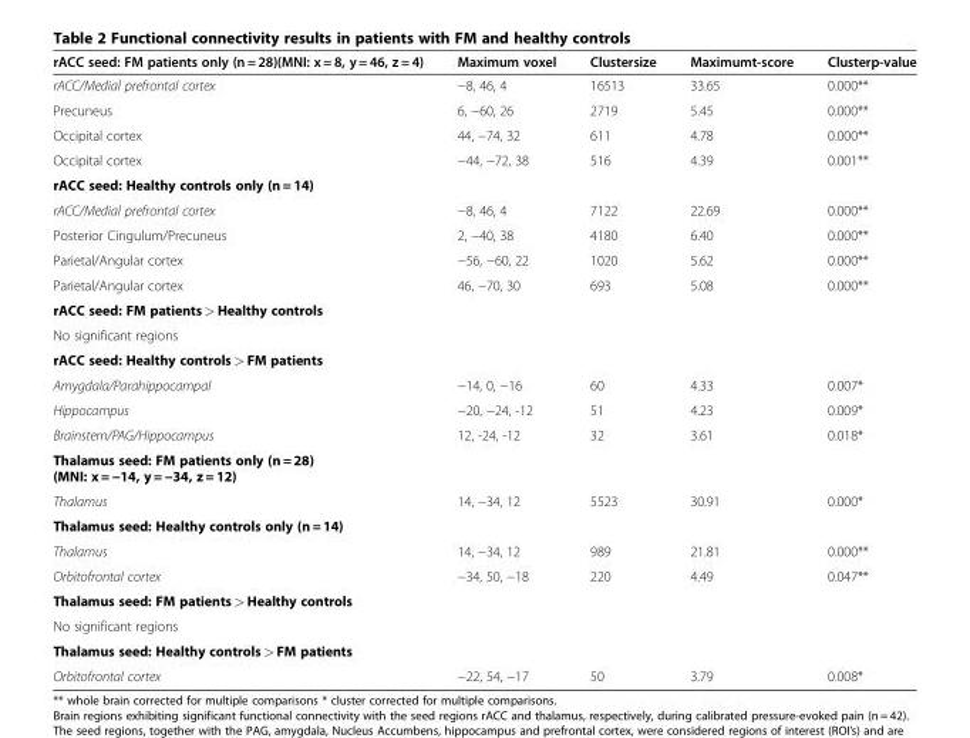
<table><thead><tr><td>rACC seed: FM patients only (n = 28)(MNI: x = 8, y = 46, z = 4)</td><td>Maximum voxel</td><td>Clustersize</td><td>Maximumt-score</td><td>Clusterp-value</td></tr></thead><tbody><tr><td>rACC/Medial prefrontal cortex</td><td>−8, 46, 4</td><td>16513</td><td>33.65</td><td>0.000**</td></tr><tr><td>Precuneus</td><td>6, −60, 26</td><td>2719</td><td>5.45</td><td>0.000**</td></tr><tr><td>Occipital cortex</td><td>44, −74, 32</td><td>611</td><td>4.78</td><td>0.000**</td></tr><tr><td>Occipital cortex</td><td>−44, −72, 38</td><td>516</td><td>4.39</td><td>0.001**</td></tr><tr><td colspan="5">rACC seed: Healthy controls only (n = 14)</td></tr><tr><td>rACC/Medial prefrontal cortex</td><td>−8, 46, 4</td><td>7122</td><td>22.69</td><td>0.000**</td></tr><tr><td>Posterior Cingulum/Precuneus</td><td>2, −40, 38</td><td>4180</td><td>6.40</td><td>0.000**</td></tr><tr><td>Parietal/Angular cortex</td><td>−56, −60, 22</td><td>1020</td><td>5.62</td><td>0.000**</td></tr><tr><td>Parietal/Angular cortex</td><td>46, −70, 30</td><td>693</td><td>5.08</td><td>0.000**</td></tr><tr><td colspan="5">rACC seed: FM patients &gt; Healthy controls</td></tr><tr><td colspan="5">No significant regions</td></tr><tr><td colspan="5">rACC seed: Healthy controls &gt; FM patients</td></tr><tr><td>Amygdala/Parahippocampal</td><td>−14, 0, −16</td><td>60</td><td>4.33</td><td>0.007*</td></tr><tr><td>Hippocampus</td><td>−20, −24, -12</td><td>51</td><td>4.23</td><td>0.009*</td></tr><tr><td>Brainstem/PAG/Hippocampus</td><td>12, -24, -12</td><td>32</td><td>3.61</td><td>0.018*</td></tr><tr><td colspan="5">Thalamus seed: FM patients only (n = 28) (MNI: x = −14, y = −34, z = 12)</td></tr><tr><td>Thalamus</td><td>14, −34, 12</td><td>5523</td><td>30.91</td><td>0.000*</td></tr><tr><td colspan="5">Thalamus seed: Healthy controls only (n = 14)</td></tr><tr><td>Thalamus</td><td>14, −34, 12</td><td>989</td><td>21.81</td><td>0.000**</td></tr><tr><td>Orbitofrontal cortex</td><td>−34, 50, −18</td><td>220</td><td>4.49</td><td>0.047**</td></tr><tr><td colspan="5">Thalamus seed: FM patients &gt; Healthy controls</td></tr><tr><td colspan="5">No significant regions</td></tr><tr><td colspan="5">Thalamus seed: Healthy controls &gt; FM patients</td></tr><tr><td>Orbitofrontal cortex</td><td>−22, 54, −17</td><td>50</td><td>3.79</td><td>0.008*</td></tr></tbody></table>